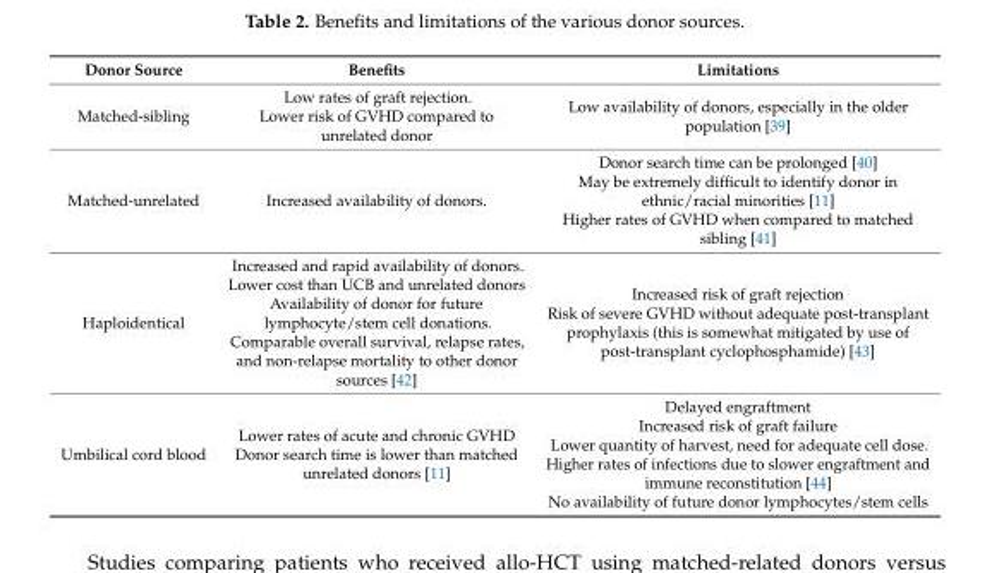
<table><thead><tr><td>Donor Source</td><td>Benefits</td><td>Limitations</td></tr></thead><tbody><tr><td>Matched-sibling</td><td>Low rates of graft rejection. Lower risk of GVHD compared to unrelated donor</td><td>Low availability of donors, especially in the older population [39]</td></tr><tr><td>Matched-unrelated</td><td>Increased availability of donors.</td><td>Donor search time can be prolonged [40] May be extremely difficult to identify donor in ethnic/racial minorities [11] Higher rates of GVHD when compared to matched sibling [41]</td></tr><tr><td>Haploidentical</td><td>Increased and rapid availability of donors. Lower cost than UCB and unrelated donors Availability of donor for future lymphocyte/stem cell donations. Comparable overall survival, relapse rates, and non-relapse mortality to other donor sources [42]</td><td>Increased risk of graft rejection Risk of severe GVHD without adequate post-transplant prophylaxis (this is somewhat mitigated by use of post-transplant cyclophosphamide) [43]</td></tr><tr><td>Umbilical cord blood</td><td>Lower rates of acute and chronic GVHD Donor search time is lower than matched unrelated donors [11]</td><td>Delayed engraftment Increased risk of graft failure Lower quantity of harvest, need for adequate cell dose. Higher rates of infections due to slower engraftment and immune reconstitution [44] No availability of future donor lymphocytes/stem cells</td></tr></tbody></table>